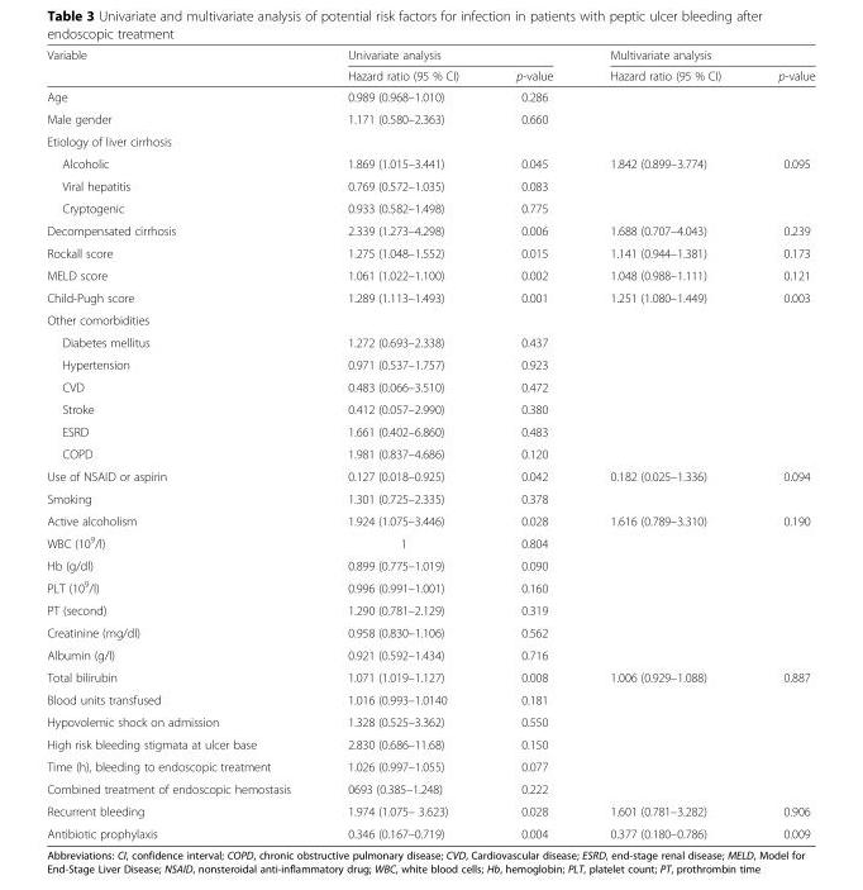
<table><thead><tr><td rowspan="2">Variable</td><td colspan="2">Univariate analysis</td><td colspan="2">Multivariate analysis</td></tr><tr><td>Hazard ratio (95 % CI)</td><td>p-value</td><td>Hazard ratio (95 % CI)</td><td>p-value</td></tr></thead><tbody><tr><td>Age</td><td>0.989 (0.968–1.010)</td><td>0.286</td><td></td><td></td></tr><tr><td>Male gender</td><td>1.171 (0.580–2.363)</td><td>0.660</td><td></td><td></td></tr><tr><td colspan="5">Etiology of liver cirrhosis</td></tr><tr><td>Alcoholic</td><td>1.869 (1.015–3.441)</td><td>0.045</td><td>1.842 (0.899–3.774)</td><td>0.095</td></tr><tr><td>Viral hepatitis</td><td>0.769 (0.572–1.035)</td><td>0.083</td><td></td><td></td></tr><tr><td>Cryptogenic</td><td>0.933 (0.582–1.498)</td><td>0.775</td><td></td><td></td></tr><tr><td>Decompensated cirrhosis</td><td>2.339 (1.273–4.298)</td><td>0.006</td><td>1.688 (0.707–4.043)</td><td>0.239</td></tr><tr><td>Rockall score</td><td>1.275 (1.048–1.552)</td><td>0.015</td><td>1.141 (0.944–1.381)</td><td>0.173</td></tr><tr><td>MELD score</td><td>1.061 (1.022–1.100)</td><td>0.002</td><td>1.048 (0.988–1.111)</td><td>0.121</td></tr><tr><td>Child-Pugh score</td><td>1.289 (1.113–1.493)</td><td>0.001</td><td>1.251 (1.080–1.449)</td><td>0.003</td></tr><tr><td colspan="5">Other comorbidities</td></tr><tr><td>Diabetes mellitus</td><td>1.272 (0.693–2.338)</td><td>0.437</td><td></td><td></td></tr><tr><td>Hypertension</td><td>0.971 (0.537–1.757)</td><td>0.923</td><td></td><td></td></tr><tr><td>CVD</td><td>0.483 (0.066–3.510)</td><td>0.472</td><td></td><td></td></tr><tr><td>Stroke</td><td>0.412 (0.057–2.990)</td><td>0.380</td><td></td><td></td></tr><tr><td>ESRD</td><td>1.661 (0.402–6.860)</td><td>0.483</td><td></td><td></td></tr><tr><td>COPD</td><td>1.981 (0.837–4.686)</td><td>0.120</td><td></td><td></td></tr><tr><td>Use of NSAID or aspirin</td><td>0.127 (0.018–0.925)</td><td>0.042</td><td>0.182 (0.025–1.336)</td><td>0.094</td></tr><tr><td>Smoking</td><td>1.301 (0.725–2.335)</td><td>0.378</td><td></td><td></td></tr><tr><td>Active alcoholism</td><td>1.924 (1.075–3.446)</td><td>0.028</td><td>1.616 (0.789–3.310)</td><td>0.190</td></tr><tr><td>WBC (10<sup>9</sup>/l)</td><td>1</td><td>0.804</td><td></td><td></td></tr><tr><td>Hb (g/dl)</td><td>0.899 (0.775–1.019)</td><td>0.090</td><td></td><td></td></tr><tr><td>PLT (10<sup>9</sup>/l)</td><td>0.996 (0.991–1.001)</td><td>0.160</td><td></td><td></td></tr><tr><td>PT (second)</td><td>1.290 (0.781–2.129)</td><td>0.319</td><td></td><td></td></tr><tr><td>Creatinine (mg/dl)</td><td>0.958 (0.830–1.106)</td><td>0.562</td><td></td><td></td></tr><tr><td>Albumin (g/l)</td><td>0.921 (0.592–1.434)</td><td>0.716</td><td></td><td></td></tr><tr><td>Total bilirubin</td><td>1.071 (1.019–1.127)</td><td>0.008</td><td>1.006 (0.929–1.088)</td><td>0.887</td></tr><tr><td>Blood units transfused</td><td>1.016 (0.993–1.0140</td><td>0.181</td><td></td><td></td></tr><tr><td>Hypovolemic shock on admission</td><td>1.328 (0.525–3.362)</td><td>0.550</td><td></td><td></td></tr><tr><td>High risk bleeding stigmata at ulcer base</td><td>2.830 (0.686–11.68)</td><td>0.150</td><td></td><td></td></tr><tr><td>Time (h), bleeding to endoscopic treatment</td><td>1.026 (0.997–1.055)</td><td>0.077</td><td></td><td></td></tr><tr><td>Combined treatment of endoscopic hemostasis</td><td>0693 (0.385–1.248)</td><td>0.222</td><td></td><td></td></tr><tr><td>Recurrent bleeding</td><td>1.974 (1.075– 3.623)</td><td>0.028</td><td>1.601 (0.781–3.282)</td><td>0.906</td></tr><tr><td>Antibiotic prophylaxis</td><td>0.346 (0.167–0.719)</td><td>0.004</td><td>0.377 (0.180–0.786)</td><td>0.009</td></tr></tbody></table>